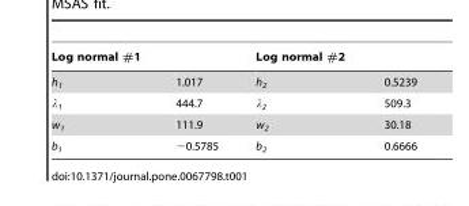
<table><thead><tr><td colspan="2">Log normal #1</td><td colspan="2">Log normal #2</td></tr><tr><td>h<sub>1</sub></td><td>1.017</td><td>h<sub>2</sub></td><td>0.5239</td></tr></thead><tbody><tr><td>λ<sub>1</sub></td><td>444.7</td><td>λ<sub>2</sub></td><td>509.3</td></tr><tr><td>w<sub>1</sub></td><td>111.9</td><td>w<sub>2</sub></td><td>30.18</td></tr><tr><td>b<sub>1</sub></td><td>−0.5785</td><td>b<sub>2</sub></td><td>0.6666</td></tr></tbody></table>